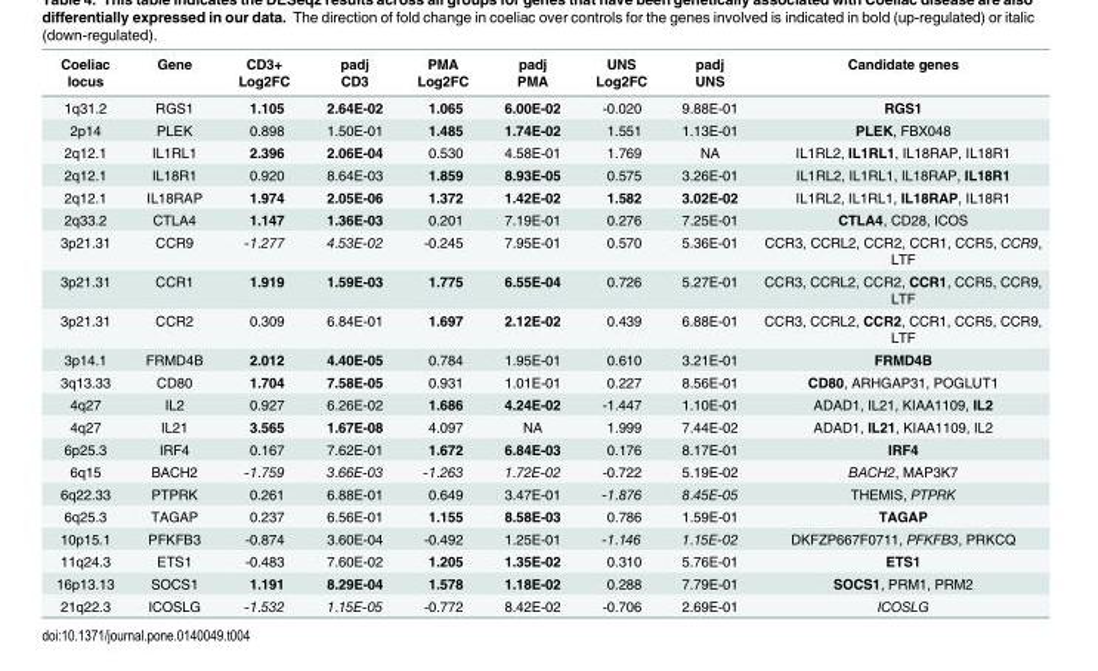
<table><thead><tr><td>Coeliac locus</td><td>Gene</td><td>CD3+ Log2FC</td><td>padj CD3</td><td>PMA Log2FC</td><td>padj PMA</td><td>UNS Log2FC</td><td>padj UNS</td><td>Candidate genes</td></tr></thead><tbody><tr><td>1q31.2</td><td>RGS1</td><td>1.105</td><td>2.64E-02</td><td>1.065</td><td>6.00E-02</td><td>-0.020</td><td>9.88E-01</td><td>RGS1</td></tr><tr><td>2p14</td><td>PLEK</td><td>0.898</td><td>1.50E-01</td><td>1.485</td><td>1.74E-02</td><td>1.551</td><td>1.13E-01</td><td>PLEK, FBX048</td></tr><tr><td>2q12.1</td><td>IL1RL1</td><td>2.396</td><td>2.06E-04</td><td>0.530</td><td>4.58E-01</td><td>1.769</td><td>NA</td><td>IL1RL2, IL1RL1, IL18RAP, IL18R1</td></tr><tr><td>2q12.1</td><td>IL18R1</td><td>0.920</td><td>8.64E-03</td><td>1.859</td><td>8.93E-05</td><td>0.575</td><td>3.26E-01</td><td>IL1RL2, IL1RL1, IL18RAP, IL18R1</td></tr><tr><td>2q12.1</td><td>IL18RAP</td><td>1.974</td><td>2.05E-06</td><td>1.372</td><td>1.42E-02</td><td>1.582</td><td>3.02E-02</td><td>IL1RL2, IL1RL1, IL18RAP, IL18R1</td></tr><tr><td>2q33.2</td><td>CTLA4</td><td>1.147</td><td>1.36E-03</td><td>0.201</td><td>7.19E-01</td><td>0.276</td><td>7.25E-01</td><td>CTLA4, CD28, ICOS</td></tr><tr><td>3p21.31</td><td>CCR9</td><td>-1.277</td><td>4.53E-02</td><td>-0.245</td><td>7.95E-01</td><td>0.570</td><td>5.36E-01</td><td>CCR3, CCRL2, CCR2, CCR1, CCR5, CCR9, LTF</td></tr><tr><td>3p21.31</td><td>CCR1</td><td>1.919</td><td>1.59E-03</td><td>1.775</td><td>6.55E-04</td><td>0.726</td><td>5.27E-01</td><td>CCR3, CCRL2, CCR2, CCR1, CCR5, CCR9, LTF</td></tr><tr><td>3p21.31</td><td>CCR2</td><td>0.309</td><td>6.84E-01</td><td>1.697</td><td>2.12E-02</td><td>0.439</td><td>6.88E-01</td><td>CCR3, CCRL2, CCR2, CCR1, CCR5, CCR9, LTF</td></tr><tr><td>3p14.1</td><td>FRMD4B</td><td>2.012</td><td>4.40E-05</td><td>0.784</td><td>1.95E-01</td><td>0.610</td><td>3.21E-01</td><td>FRMD4B</td></tr><tr><td>3q13.33</td><td>CD80</td><td>1.704</td><td>7.58E-05</td><td>0.931</td><td>1.01E-01</td><td>0.227</td><td>8.56E-01</td><td>CD80, ARHGAP31, POGLUT1</td></tr><tr><td>4q27</td><td>IL2</td><td>0.927</td><td>6.26E-02</td><td>1.686</td><td>4.24E-02</td><td>-1.447</td><td>1.10E-01</td><td>ADAD1, IL21, KIAA1109, IL2</td></tr><tr><td>4q27</td><td>IL21</td><td>3.565</td><td>1.67E-08</td><td>4.097</td><td>NA</td><td>1.999</td><td>7.44E-02</td><td>ADAD1, IL21, KIAA1109, IL2</td></tr><tr><td>6p25.3</td><td>IRF4</td><td>0.167</td><td>7.62E-01</td><td>1.672</td><td>6.84E-03</td><td>0.176</td><td>8.17E-01</td><td>IRF4</td></tr><tr><td>6q15</td><td>BACH2</td><td>-1.759</td><td>3.66E-03</td><td>-1.263</td><td>1.72E-02</td><td>-0.722</td><td>5.19E-02</td><td>BACH2, MAP3K7</td></tr><tr><td>6q22.33</td><td>PTPRK</td><td>0.261</td><td>6.88E-01</td><td>0.649</td><td>3.47E-01</td><td>-1.876</td><td>8.45E-05</td><td>THEMIS, PTPRK</td></tr><tr><td>6q25.3</td><td>TAGAP</td><td>0.237</td><td>6.56E-01</td><td>1.155</td><td>8.58E-03</td><td>0.786</td><td>1.59E-01</td><td>TAGAP</td></tr><tr><td>10p15.1</td><td>PFKFB3</td><td>-0.874</td><td>3.60E-04</td><td>-0.492</td><td>1.25E-01</td><td>-1.146</td><td>1.15E-02</td><td>DKFZP667F0711, PFKFB3, PRKCQ</td></tr><tr><td>11q24.3</td><td>ETS1</td><td>-0.483</td><td>7.60E-02</td><td>1.205</td><td>1.35E-02</td><td>0.310</td><td>5.76E-01</td><td>ETS1</td></tr><tr><td>16p13.13</td><td>SOCS1</td><td>1.191</td><td>8.29E-04</td><td>1.578</td><td>1.18E-02</td><td>0.288</td><td>7.79E-01</td><td>SOCS1, PRM1, PRM2</td></tr><tr><td>21q22.3</td><td>ICOSLG</td><td>-1.532</td><td>1.15E-05</td><td>-0.772</td><td>8.42E-02</td><td>-0.706</td><td>2.69E-01</td><td>ICOSLG</td></tr></tbody></table>